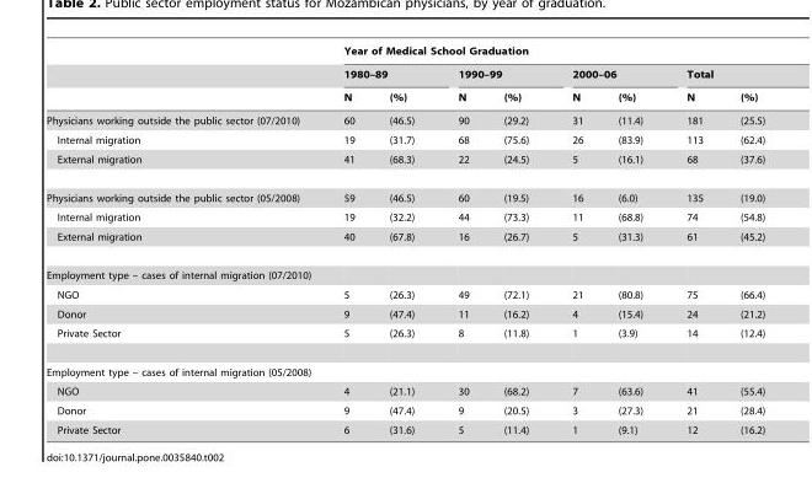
<table><thead><tr><td rowspan="3"></td><td colspan="8">Year of Medical School Graduation</td></tr><tr><td colspan="2">1980–89</td><td colspan="2">1990–99</td><td colspan="2">2000–06</td><td colspan="2">Total</td></tr><tr><td>N</td><td>(%)</td><td>N</td><td>(%)</td><td>N</td><td>(%)</td><td>N</td><td>(%)</td></tr></thead><tbody><tr><td>Physicians working outside the public sector (07/2010)</td><td>60</td><td>(46.5)</td><td>90</td><td>(29.2)</td><td>31</td><td>(11.4)</td><td>181</td><td>(25.5)</td></tr><tr><td>Internal migration</td><td>19</td><td>(31.7)</td><td>68</td><td>(75.6)</td><td>26</td><td>(83.9)</td><td>113</td><td>(62.4)</td></tr><tr><td>External migration</td><td>41</td><td>(68.3)</td><td>22</td><td>(24.5)</td><td>5</td><td>(16.1)</td><td>68</td><td>(37.6)</td></tr><tr><td>Physicians working outside the public sector (05/2008)</td><td>59</td><td>(46.5)</td><td>60</td><td>(19.5)</td><td>16</td><td>(6.0)</td><td>135</td><td>(19.0)</td></tr><tr><td>Internal migration</td><td>19</td><td>(32.2)</td><td>44</td><td>(73.3)</td><td>11</td><td>(68.8)</td><td>74</td><td>(54.8)</td></tr><tr><td>External migration</td><td>40</td><td>(67.8)</td><td>16</td><td>(26.7)</td><td>5</td><td>(31.3)</td><td>61</td><td>(45.2)</td></tr><tr><td colspan="9">Employment type – cases of internal migration (07/2010)</td></tr><tr><td>NGO</td><td>5</td><td>(26.3)</td><td>49</td><td>(72.1)</td><td>21</td><td>(80.8)</td><td>75</td><td>(66.4)</td></tr><tr><td>Donor</td><td>9</td><td>(47.4)</td><td>11</td><td>(16.2)</td><td>4</td><td>(15.4)</td><td>24</td><td>(21.2)</td></tr><tr><td>Private Sector</td><td>5</td><td>(26.3)</td><td>8</td><td>(11.8)</td><td>1</td><td>(3.9)</td><td>14</td><td>(12.4)</td></tr><tr><td colspan="9">Employment type – cases of internal migration (05/2008)</td></tr><tr><td>NGO</td><td>4</td><td>(21.1)</td><td>30</td><td>(68.2)</td><td>7</td><td>(63.6)</td><td>41</td><td>(55.4)</td></tr><tr><td>Donor</td><td>9</td><td>(47.4)</td><td>9</td><td>(20.5)</td><td>3</td><td>(27.3)</td><td>21</td><td>(28.4)</td></tr><tr><td>Private Sector</td><td>6</td><td>(31.6)</td><td>5</td><td>(11.4)</td><td>1</td><td>(9.1)</td><td>12</td><td>(16.2)</td></tr></tbody></table>